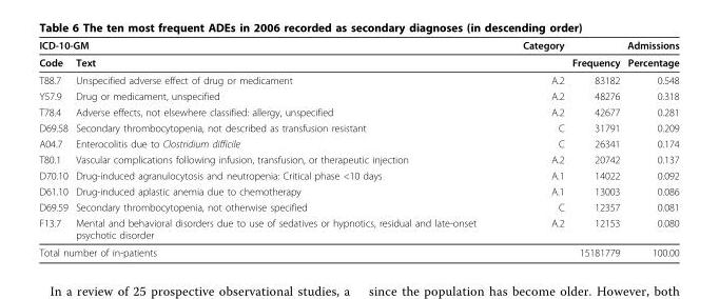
<table><thead><tr><td colspan="2">ICD-10-GM</td><td rowspan="2">Category</td><td colspan="2">Admissions</td></tr><tr><td>Code</td><td>Text</td><td>Frequency</td><td>Percentage</td></tr></thead><tbody><tr><td>T88.7</td><td>Unspecified adverse effect of drug or medicament</td><td>A.2</td><td>83182</td><td>0.548</td></tr><tr><td>Y57.9</td><td>Drug or medicament, unspecified</td><td>A.2</td><td>48276</td><td>0.318</td></tr><tr><td>T78.4</td><td>Adverse effects, not elsewhere classified: allergy, unspecified</td><td>A.2</td><td>42677</td><td>0.281</td></tr><tr><td>D69.58</td><td>Secondary thrombocytopenia, not described as transfusion resistant</td><td>C</td><td>31791</td><td>0.209</td></tr><tr><td>A04.7</td><td>Enterocolitis due to Clostridium difficile</td><td>C</td><td>26341</td><td>0.174</td></tr><tr><td>T80.1</td><td>Vascular complications following infusion, transfusion, or therapeutic injection</td><td>A.2</td><td>20742</td><td>0.137</td></tr><tr><td>D70.10</td><td>Drug-induced agranulocytosis and neutropenia: Critical phase &lt;10 days</td><td>A.1</td><td>14022</td><td>0.092</td></tr><tr><td>D61.10</td><td>Drug-induced aplastic anemia due to chemotherapy</td><td>A.1</td><td>13003</td><td>0.086</td></tr><tr><td>D69.59</td><td>Secondary thrombocytopenia, not otherwise specified</td><td>C</td><td>12357</td><td>0.081</td></tr><tr><td>F13.7</td><td>Mental and behavioral disorders due to use of sedatives or hypnotics, residual and late-onset psychotic disorder</td><td>A.2</td><td>12153</td><td>0.080</td></tr><tr><td colspan="2">Total number of in-patients</td><td></td><td>15181779</td><td>100.00</td></tr></tbody></table>